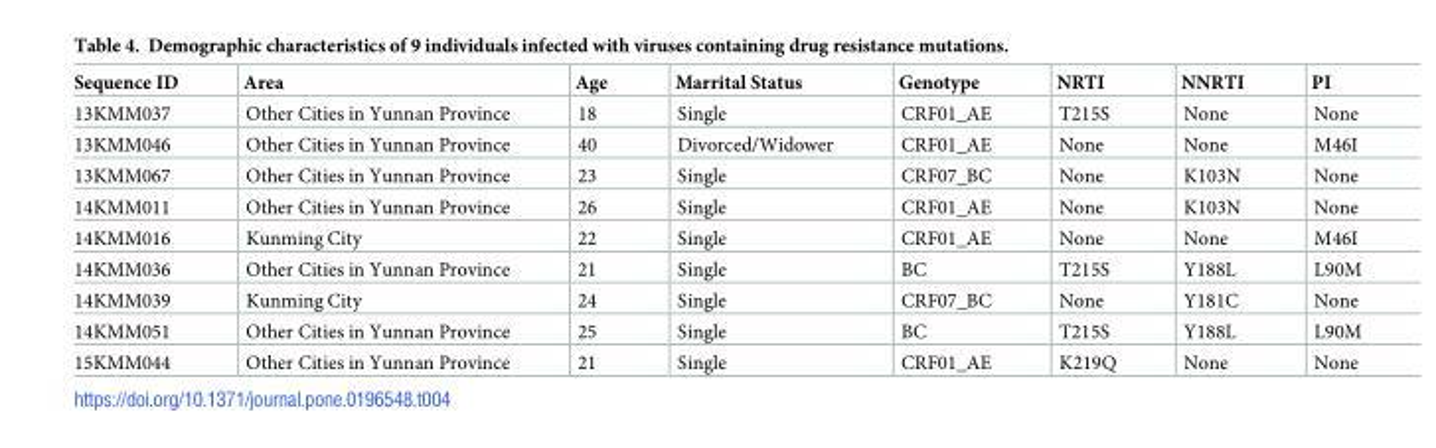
<table><thead><tr><td>Sequence ID</td><td>Area</td><td>Age</td><td>Marrital Status</td><td>Genotype</td><td>NRTI</td><td>NNRTI</td><td>PI</td></tr></thead><tbody><tr><td>13KMM037</td><td>Other Cities in Yunnan Province</td><td>18</td><td>Single</td><td>CRF01_AE</td><td>T215S</td><td>None</td><td>None</td></tr><tr><td>13KMM046</td><td>Other Cities in Yunnan Province</td><td>40</td><td>Divorced/Widower</td><td>CRF01_AE</td><td>None</td><td>None</td><td>M46I</td></tr><tr><td>13KMM067</td><td>Other Cities in Yunnan Province</td><td>23</td><td>Single</td><td>CRF07_BC</td><td>None</td><td>K103N</td><td>None</td></tr><tr><td>14KMM011</td><td>Other Cities in Yunnan Province</td><td>26</td><td>Single</td><td>CRF01_AE</td><td>None</td><td>K103N</td><td>None</td></tr><tr><td>14KMM016</td><td>Kunming City</td><td>22</td><td>Single</td><td>CRF01_AE</td><td>None</td><td>None</td><td>M46I</td></tr><tr><td>14KMM036</td><td>Other Cities in Yunnan Province</td><td>21</td><td>Single</td><td>BC</td><td>T215S</td><td>Y188L</td><td>L90M</td></tr><tr><td>14KMM039</td><td>Kunming City</td><td>24</td><td>Single</td><td>CRF07_BC</td><td>None</td><td>Y181C</td><td>None</td></tr><tr><td>14KMM051</td><td>Other Cities in Yunnan Province</td><td>25</td><td>Single</td><td>BC</td><td>T215S</td><td>Y188L</td><td>L90M</td></tr><tr><td>15KMM044</td><td>Other Cities in Yunnan Province</td><td>21</td><td>Single</td><td>CRF01_AE</td><td>K219Q</td><td>None</td><td>None</td></tr></tbody></table>